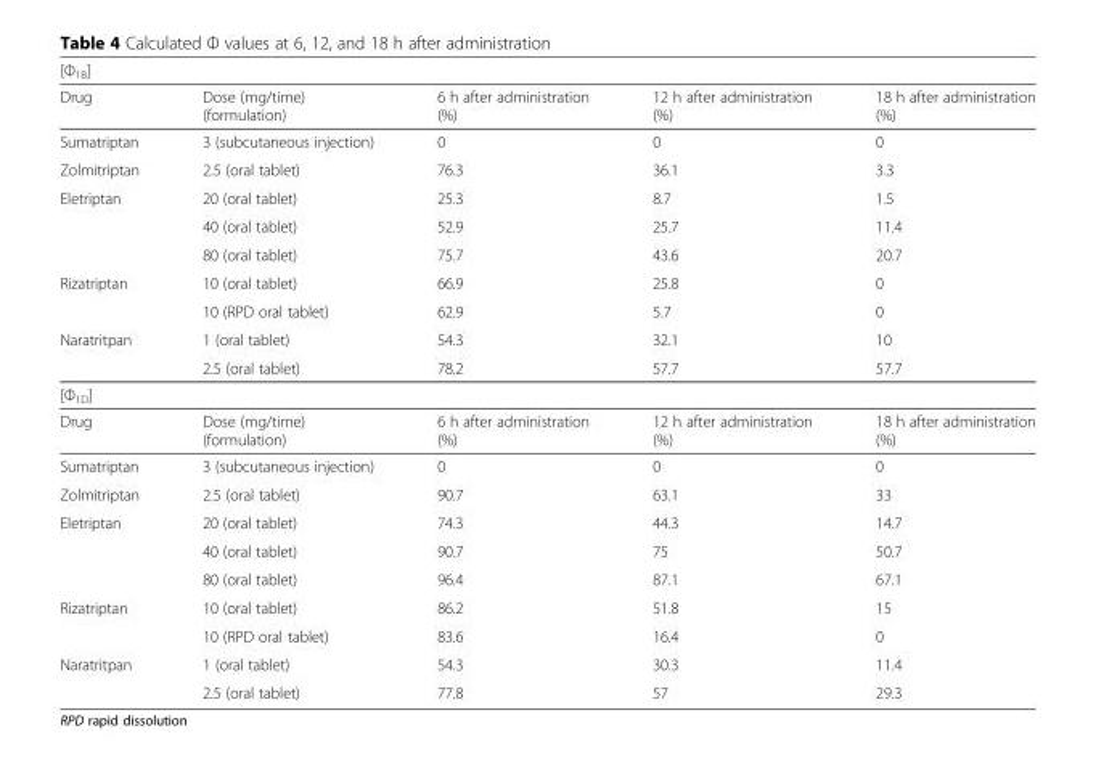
<table><tbody><tr><td colspan="5">[Φ<sub>1B</sub>]</td></tr><tr><td>Drug</td><td>Dose (mg/time) (formulation)</td><td>6 h after administration (%)</td><td>12 h after administration (%)</td><td>18 h after administration (%)</td></tr><tr><td>Sumatriptan</td><td>3 (subcutaneous injection)</td><td>0</td><td>0</td><td>0</td></tr><tr><td>Zolmitriptan</td><td>2.5 (oral tablet)</td><td>76.3</td><td>36.1</td><td>3.3</td></tr><tr><td rowspan="3">Eletriptan</td><td>20 (oral tablet)</td><td>25.3</td><td>8.7</td><td>1.5</td></tr><tr><td>40 (oral tablet)</td><td>52.9</td><td>25.7</td><td>11.4</td></tr><tr><td>80 (oral tablet)</td><td>75.7</td><td>43.6</td><td>20.7</td></tr><tr><td rowspan="2">Rizatriptan</td><td>10 (oral tablet)</td><td>66.9</td><td>25.8</td><td>0</td></tr><tr><td>10 (RPD oral tablet)</td><td>62.9</td><td>5.7</td><td>0</td></tr><tr><td rowspan="2">Naratritpan</td><td>1 (oral tablet)</td><td>54.3</td><td>32.1</td><td>10</td></tr><tr><td>2.5 (oral tablet)</td><td>78.2</td><td>57.7</td><td>57.7</td></tr><tr><td colspan="5">[Φ<sub>1D</sub>]</td></tr><tr><td>Drug</td><td>Dose (mg/time) (formulation)</td><td>6 h after administration (%)</td><td>12 h after administration (%)</td><td>18 h after administration (%)</td></tr><tr><td>Sumatriptan</td><td>3 (subcutaneous injection)</td><td>0</td><td>0</td><td>0</td></tr><tr><td>Zolmitriptan</td><td>2.5 (oral tablet)</td><td>90.7</td><td>63.1</td><td>33</td></tr><tr><td rowspan="3">Eletriptan</td><td>20 (oral tablet)</td><td>74.3</td><td>44.3</td><td>14.7</td></tr><tr><td>40 (oral tablet)</td><td>90.7</td><td>75</td><td>50.7</td></tr><tr><td>80 (oral tablet)</td><td>96.4</td><td>87.1</td><td>67.1</td></tr><tr><td rowspan="2">Rizatriptan</td><td>10 (oral tablet)</td><td>86.2</td><td>51.8</td><td>15</td></tr><tr><td>10 (RPD oral tablet)</td><td>83.6</td><td>16.4</td><td>0</td></tr><tr><td rowspan="2">Naratritpan</td><td>1 (oral tablet)</td><td>54.3</td><td>30.3</td><td>11.4</td></tr><tr><td>2.5 (oral tablet)</td><td>77.8</td><td>57</td><td>29.3</td></tr></tbody></table>